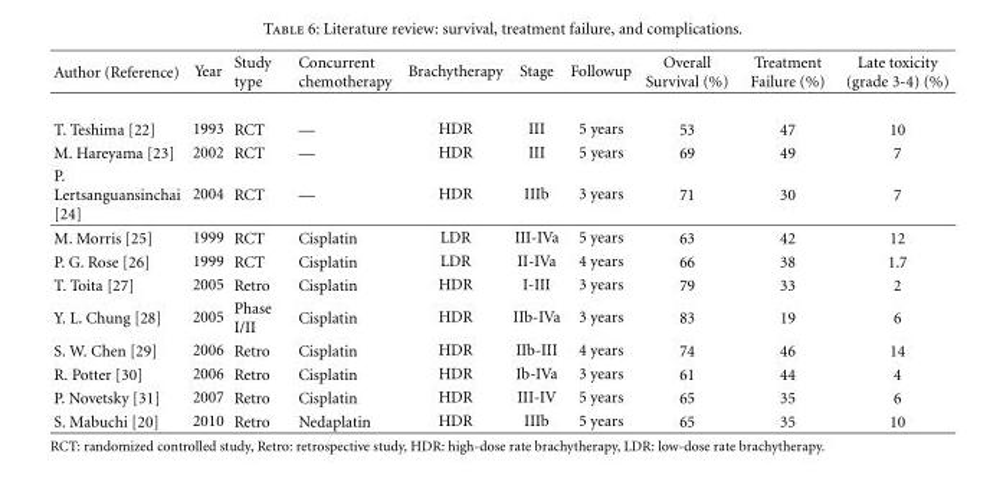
<table><thead><tr><td>Author (Reference)</td><td>Year</td><td>Study type</td><td>Concurrent chemotherapy</td><td>Brachytherapy</td><td>Stage</td><td>Followup</td><td>Overall Survival (%)</td><td>Treatment Failure (%)</td><td>Late toxicity (grade 3-4) (%)</td></tr></thead><tbody><tr><td>T. Teshima [22]</td><td>1993</td><td>RCT</td><td>—</td><td>HDR</td><td>III</td><td>5 years</td><td>53</td><td>47</td><td>10</td></tr><tr><td>M. Hareyama [23]</td><td>2002</td><td>RCT</td><td>—</td><td>HDR</td><td>III</td><td>5 years</td><td>69</td><td>49</td><td>7</td></tr><tr><td>P. Lertsanguansinchai [24]</td><td>2004</td><td>RCT</td><td>—</td><td>HDR</td><td>IIIb</td><td>3 years</td><td>71</td><td>30</td><td>7</td></tr><tr><td>M. Morris [25]</td><td>1999</td><td>RCT</td><td>Cisplatin</td><td>LDR</td><td>III-IVa</td><td>5 years</td><td>63</td><td>42</td><td>12</td></tr><tr><td>P. G. Rose [26]</td><td>1999</td><td>RCT</td><td>Cisplatin</td><td>LDR</td><td>II-IVa</td><td>4 years</td><td>66</td><td>38</td><td>1.7</td></tr><tr><td>T. Toita [27]</td><td>2005</td><td>Retro</td><td>Cisplatin</td><td>HDR</td><td>I-III</td><td>3 years</td><td>79</td><td>33</td><td>2</td></tr><tr><td>Y. L. Chung [28]</td><td>2005</td><td>Phase I/II</td><td>Cisplatin</td><td>HDR</td><td>IIb-IVa</td><td>3 years</td><td>83</td><td>19</td><td>6</td></tr><tr><td>S. W. Chen [29]</td><td>2006</td><td>Retro</td><td>Cisplatin</td><td>HDR</td><td>IIb-III</td><td>4 years</td><td>74</td><td>46</td><td>14</td></tr><tr><td>R. Potter [30]</td><td>2006</td><td>Retro</td><td>Cisplatin</td><td>HDR</td><td>Ib-IVa</td><td>3 years</td><td>61</td><td>44</td><td>4</td></tr><tr><td>P. Novetsky [31]</td><td>2007</td><td>Retro</td><td>Cisplatin</td><td>HDR</td><td>III-IV</td><td>5 years</td><td>65</td><td>35</td><td>6</td></tr><tr><td>S. Mabuchi [20]</td><td>2010</td><td>Retro</td><td>Nedaplatin</td><td>HDR</td><td>IIIb</td><td>5 years</td><td>65</td><td>35</td><td>10</td></tr></tbody></table>